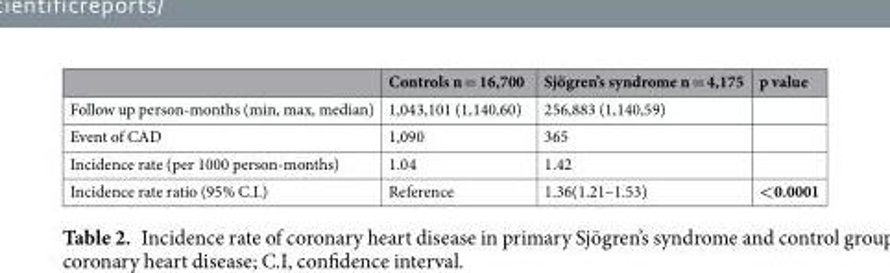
<table><thead><tr><td></td><td>Controls n = 16,700</td><td>Sjögren’s syndrome n = 4,175</td><td>p value</td></tr></thead><tbody><tr><td>Follow up person-months (min, max, median)</td><td>1,043,101 (1,140,60)</td><td>256,883 (1,140,59)</td><td></td></tr><tr><td>Event of CAD</td><td>1,090</td><td>365</td><td></td></tr><tr><td>Incidence rate (per 1000 person-months)</td><td>1.04</td><td>1.42</td><td></td></tr><tr><td>Incidence rate ratio (95% C.I.)</td><td>Reference</td><td>1.36(1.21–1.53)</td><td>&lt;0.0001</td></tr></tbody></table>